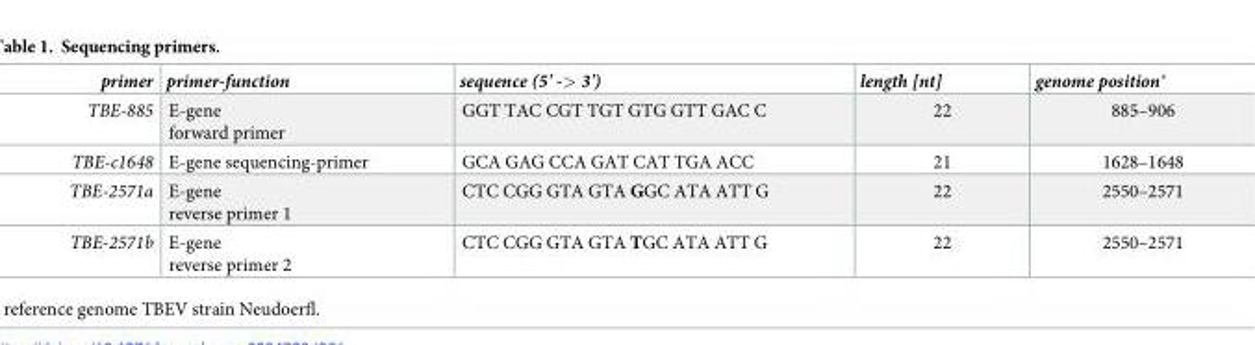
<table><thead><tr><td>primer</td><td>primer-function</td><td>sequence (5&#x27; -&gt; 3&#x27;)</td><td>length [nt]</td><td>genome position*</td></tr></thead><tbody><tr><td>TBE-885</td><td>E-gene forward primer</td><td>GGT TAC CGT TGT GTG GTT GAC C</td><td>22</td><td>885–906</td></tr><tr><td>TBE-c1648</td><td>E-gene sequencing-primer</td><td>GCA GAG CCA GAT CAT TGA ACC</td><td>21</td><td>1628–1648</td></tr><tr><td>TBE-2571a</td><td>E-gene reverse primer 1</td><td>CTC CGG GTA GTA GGC ATA ATT G</td><td>22</td><td>2550–2571</td></tr><tr><td>TBE-2571b</td><td>E-gene reverse primer 2</td><td>CTC CGG GTA GTA TGC ATA ATT G</td><td>22</td><td>2550–2571</td></tr></tbody></table>